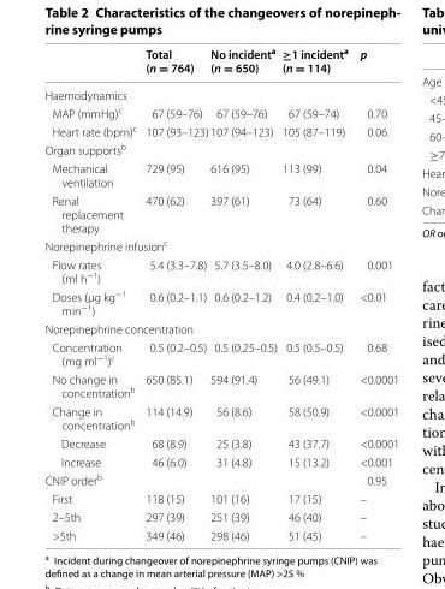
<table><thead><tr><td></td><td>Total (n = 764)</td><td>No incident<sup>a</sup> (n = 650)</td><td>≥1 incident<sup>a</sup> (n = 114)</td><td>p</td></tr></thead><tbody><tr><td colspan="5">Haemodynamics</td></tr><tr><td>MAP (mmHg)<sup>c</sup></td><td>67 (59–76)</td><td>67 (59–76)</td><td>67 (59–74)</td><td>0.70</td></tr><tr><td>Heart rate (bpm)<sup>c</sup></td><td>107 (93–123)</td><td>107 (94–123)</td><td>105 (87–119)</td><td>0.06</td></tr><tr><td colspan="5">Organ supports<sup>b</sup></td></tr><tr><td>Mechanical ventilation</td><td>729 (95)</td><td>616 (95)</td><td>113 (99)</td><td>0.04</td></tr><tr><td>Renal replacement therapy</td><td>470 (62)</td><td>397 (61)</td><td>73 (64)</td><td>0.60</td></tr><tr><td colspan="5">Norepinephrine infusion<sup>c</sup></td></tr><tr><td>Flow rates (ml h<sup>−1</sup>)</td><td>5.4 (3.3–7.8)</td><td>5.7 (3.5–8.0)</td><td>4.0 (2.8–6.6)</td><td>0.001</td></tr><tr><td>Doses (μg kg<sup>−1</sup> min<sup>−1</sup>)</td><td>0.6 (0.2–1.1)</td><td>0.6 (0.2–1.2)</td><td>0.4 (0.2–1.0)</td><td>&lt;0.01</td></tr><tr><td colspan="5">Norepinephrine concentration</td></tr><tr><td>Concentration (mg ml<sup>−1</sup>)<sup>c</sup></td><td>0.5 (0.2–0.5)</td><td>0.5 (0.25–0.5)</td><td>0.5 (0.5–0.5)</td><td>0.68</td></tr><tr><td>No change in concentration<sup>b</sup></td><td>650 (85.1)</td><td>594 (91.4)</td><td>56 (49.1)</td><td>&lt;0.0001</td></tr><tr><td>Change in concentration<sup>b</sup></td><td>114 (14.9)</td><td>56 (8.6)</td><td>58 (50.9)</td><td>&lt;0.0001</td></tr><tr><td>Decrease</td><td>68 (8.9)</td><td>25 (3.8)</td><td>43 (37.7)</td><td>&lt;0.0001</td></tr><tr><td>Increase</td><td>46 (6.0)</td><td>31 (4.8)</td><td>15 (13.2)</td><td>&lt;0.001</td></tr><tr><td colspan="4">CNIP order<sup>b</sup></td><td>0.95</td></tr><tr><td>First</td><td>118 (15)</td><td>101 (16)</td><td>17 (15)</td><td>–</td></tr><tr><td>2–5th</td><td>297 (39)</td><td>251 (39)</td><td>46 (40)</td><td>–</td></tr><tr><td>&gt;5th</td><td>349 (46)</td><td>298 (46)</td><td>51 (45)</td><td>–</td></tr></tbody></table>